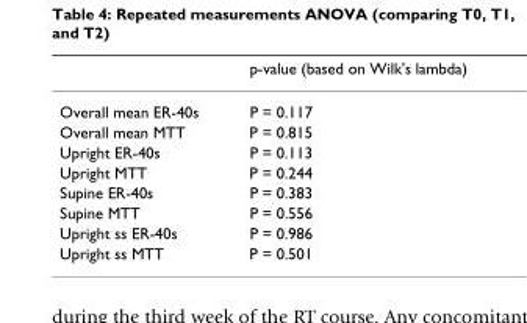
<table><thead><tr><td></td><td>p-value (based on Wilk&#x27;s lambda)</td></tr></thead><tbody><tr><td>Overall mean ER-40s</td><td>P = 0.117</td></tr><tr><td>Overall mean MTT</td><td>P = 0.815</td></tr><tr><td>Upright ER-40s</td><td>P = 0.113</td></tr><tr><td>Upright MTT</td><td>P = 0.244</td></tr><tr><td>Supine ER-40s</td><td>P = 0.383</td></tr><tr><td>Supine MTT</td><td>P = 0.556</td></tr><tr><td>Upright ss ER-40s</td><td>P = 0.986</td></tr><tr><td>Upright ss MTT</td><td>P = 0.501</td></tr></tbody></table>